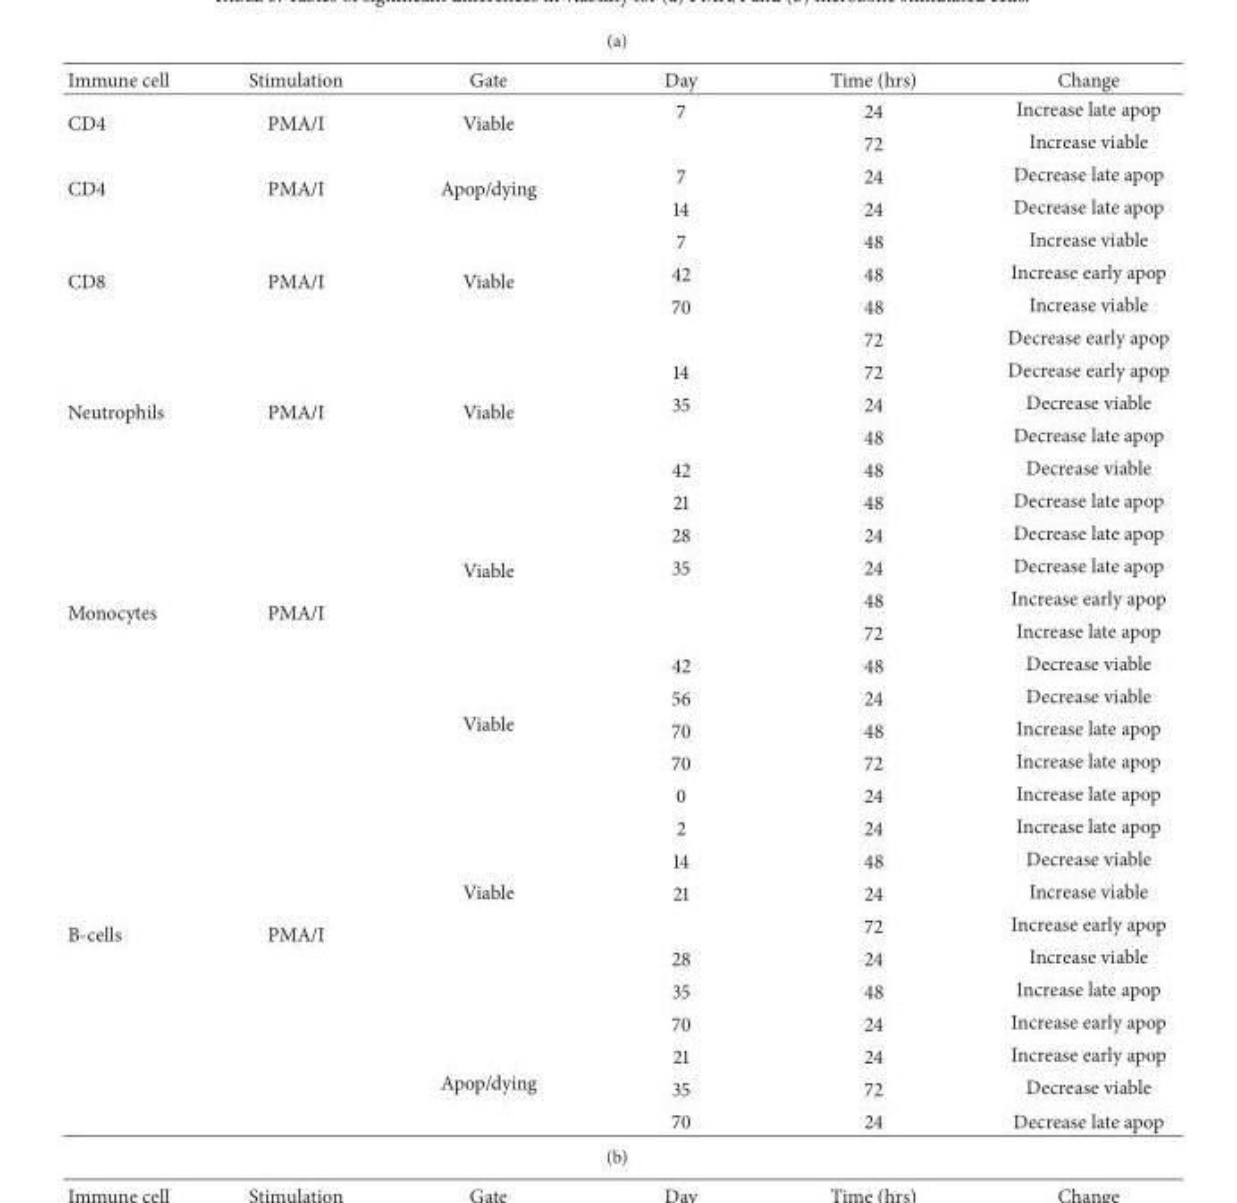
<table><thead><tr><td>Immune cell</td><td>Stimulation</td><td>Gate</td><td>Day</td><td>Time (hrs)</td><td>Change</td></tr></thead><tbody><tr><td rowspan="2">CD4</td><td rowspan="2">PMA/I</td><td rowspan="2">Viable</td><td>7</td><td>24</td><td>Increase late apop</td></tr><tr><td></td><td>72</td><td>Increase viable</td></tr><tr><td rowspan="2">CD4</td><td rowspan="2">PMA/I</td><td rowspan="2">Apop/dying</td><td>7</td><td>24</td><td>Decrease late apop</td></tr><tr><td>14</td><td>24</td><td>Decrease late apop</td></tr><tr><td rowspan="4">CD8</td><td rowspan="4">PMA/I</td><td rowspan="4">Viable</td><td>7</td><td>48</td><td>Increase viable</td></tr><tr><td>42</td><td>48</td><td>Increase early apop</td></tr><tr><td>70</td><td>48</td><td>Increase viable</td></tr><tr><td></td><td>72</td><td>Decrease early apop</td></tr><tr><td rowspan="4">Neutrophils</td><td rowspan="4">PMA/I</td><td rowspan="4">Viable</td><td>14</td><td>72</td><td>Decrease early apop</td></tr><tr><td>35</td><td>24</td><td>Decrease viable</td></tr><tr><td></td><td>48</td><td>Decrease late apop</td></tr><tr><td>42</td><td>48</td><td>Decrease viable</td></tr><tr><td rowspan="9">Monocytes</td><td rowspan="9">PMA/I</td><td rowspan="6">Viable</td><td>21</td><td>48</td><td>Decrease late apop</td></tr><tr><td>28</td><td>24</td><td>Decrease late apop</td></tr><tr><td>35</td><td>24</td><td>Decrease late apop</td></tr><tr><td></td><td>48</td><td>Increase early apop</td></tr><tr><td></td><td>72</td><td>Increase late apop</td></tr><tr><td>42</td><td>48</td><td>Decrease viable</td></tr><tr><td rowspan="3">Viable</td><td>56</td><td>24</td><td>Decrease viable</td></tr><tr><td>70</td><td>48</td><td>Increase late apop</td></tr><tr><td>70</td><td>72</td><td>Increase late apop</td></tr><tr><td rowspan="11">B-cells</td><td rowspan="11">PMA/I</td><td rowspan="8">Viable</td><td>0</td><td>24</td><td>Increase late apop</td></tr><tr><td>2</td><td>24</td><td>Increase late apop</td></tr><tr><td>14</td><td>48</td><td>Decrease viable</td></tr><tr><td>21</td><td>24</td><td>Increase viable</td></tr><tr><td></td><td>72</td><td>Increase early apop</td></tr><tr><td>28</td><td>24</td><td>Increase viable</td></tr><tr><td>35</td><td>48</td><td>Increase late apop</td></tr><tr><td>70</td><td>24</td><td>Increase early apop</td></tr><tr><td rowspan="3">Apop/dying</td><td>21</td><td>24</td><td>Increase early apop</td></tr><tr><td>35</td><td>72</td><td>Decrease viable</td></tr><tr><td>70</td><td>24</td><td>Decrease late apop</td></tr></tbody></table>